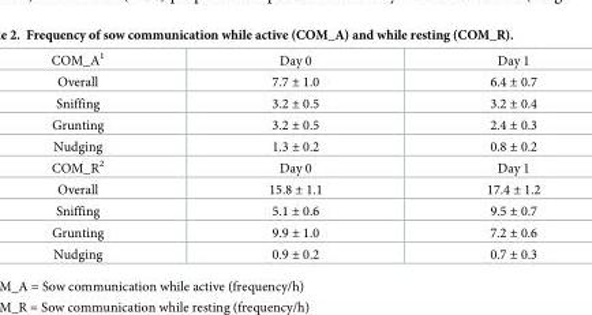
<table><tbody><tr><td>COM_A<sup>1</sup></td><td>Day 0</td><td>Day 1</td></tr><tr><td>Overall</td><td>7.7 ± 1.0</td><td>6.4 ± 0.7</td></tr><tr><td>Sniffing</td><td>3.2 ± 0.5</td><td>3.2 ± 0.4</td></tr><tr><td>Grunting</td><td>3.2 ± 0.5</td><td>2.4 ± 0.3</td></tr><tr><td>Nudging</td><td>1.3 ± 0.2</td><td>0.8 ± 0.2</td></tr><tr><td>COM_R<sup>2</sup></td><td>Day 0</td><td>Day 1</td></tr><tr><td>Overall</td><td>15.8 ± 1.1</td><td>17.4 ± 1.2</td></tr><tr><td>Sniffing</td><td>5.1 ± 0.6</td><td>9.5 ± 0.7</td></tr><tr><td>Grunting</td><td>9.9 ± 1.0</td><td>7.2 ± 0.6</td></tr><tr><td>Nudging</td><td>0.9 ± 0.2</td><td>0.7 ± 0.3</td></tr></tbody></table>